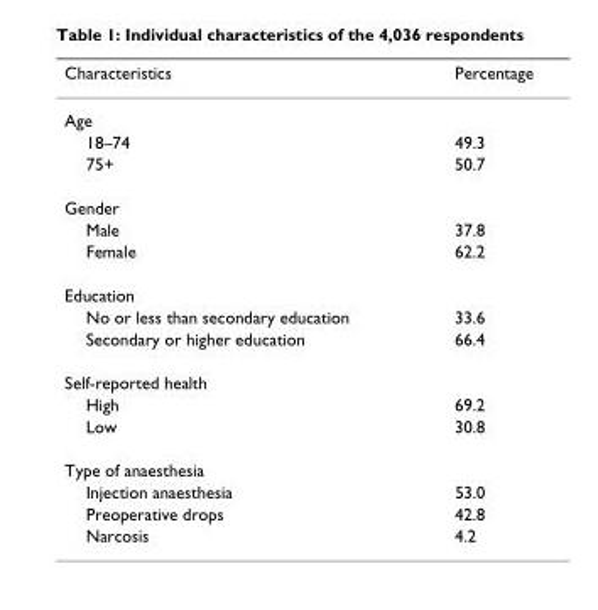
<table><thead><tr><td>Characteristics</td><td>Percentage</td></tr></thead><tbody><tr><td colspan="2">Age</td></tr><tr><td>18–74</td><td>49.3</td></tr><tr><td>75+</td><td>50.7</td></tr><tr><td colspan="2">Gender</td></tr><tr><td>Male</td><td>37.8</td></tr><tr><td>Female</td><td>62.2</td></tr><tr><td colspan="2">Education</td></tr><tr><td>No or less than secondary education</td><td>33.6</td></tr><tr><td>Secondary or higher education</td><td>66.4</td></tr><tr><td colspan="2">Self-reported health</td></tr><tr><td>High</td><td>69.2</td></tr><tr><td>Low</td><td>30.8</td></tr><tr><td colspan="2">Type of anaesthesia</td></tr><tr><td>Injection anaesthesia</td><td>53.0</td></tr><tr><td>Preoperative drops</td><td>42.8</td></tr><tr><td>Narcosis</td><td>4.2</td></tr></tbody></table>